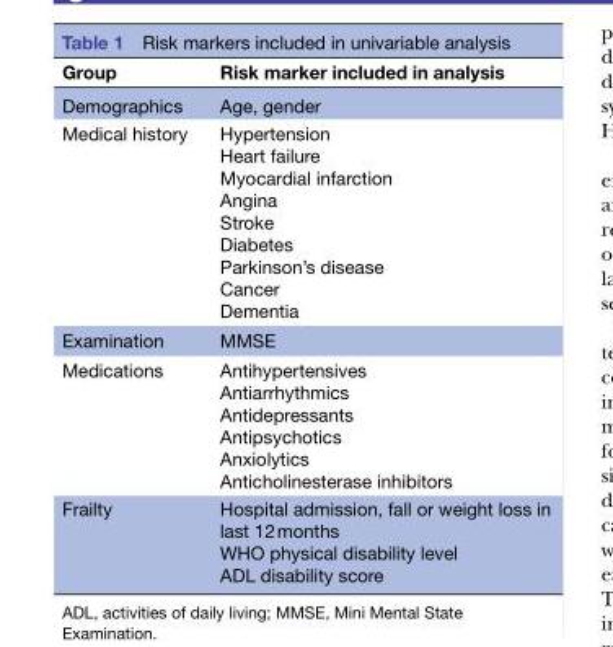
<table><thead><tr><td>Group</td><td>Risk marker included in analysis</td></tr></thead><tbody><tr><td>Demographics</td><td>Age, gender</td></tr><tr><td>Medical history</td><td>Hypertension Heart failure Myocardial infarction Angina Stroke Diabetes Parkinson’s disease Cancer Dementia</td></tr><tr><td>Examination</td><td>MMSE</td></tr><tr><td>Medications</td><td>Antihypertensives Antiarrhythmics Antidepressants Antipsychotics Anxiolytics Anticholinesterase inhibitors</td></tr><tr><td>Frailty</td><td>Hospital admission, fall or weight loss in last 12 months WHO physical disability level ADL disability score</td></tr></tbody></table>